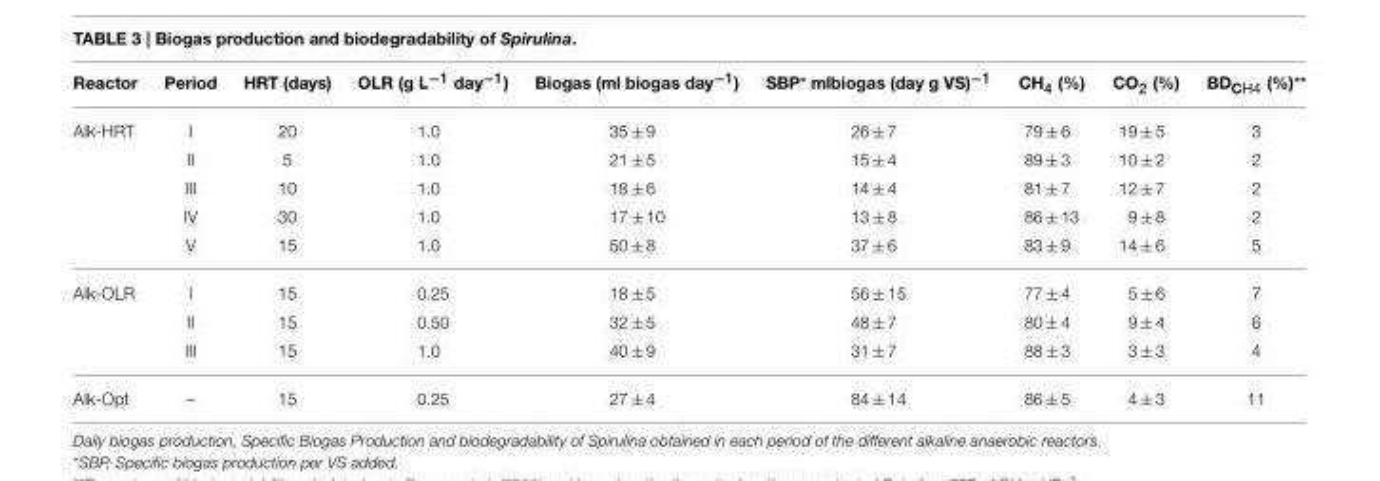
<table><thead><tr><td>Reactor</td><td>Period</td><td>HRT (days)</td><td>OLR (g L<sup>−1</sup> day<sup>−1</sup>)</td><td>Biogas (ml biogas day<sup>−1</sup>)</td><td>SBP* mlbiogas (day g VS)<sup>−1</sup></td><td>CH<sub>4</sub> (%)</td><td>CO<sub>2</sub> (%)</td><td>BD<sub>CH4</sub> (%)**</td></tr></thead><tbody><tr><td rowspan="5">Alk-HRT</td><td>I</td><td>20</td><td>1.0</td><td>35 ± 9</td><td>26 ± 7</td><td>79 ± 6</td><td>19 ± 5</td><td>3</td></tr><tr><td>II</td><td>5</td><td>1.0</td><td>21 ± 5</td><td>15 ± 4</td><td>89 ± 3</td><td>10 ± 2</td><td>2</td></tr><tr><td>III</td><td>10</td><td>1.0</td><td>18 ± 6</td><td>14 ± 4</td><td>81 ± 7</td><td>12 ± 7</td><td>2</td></tr><tr><td>IV</td><td>30</td><td>1.0</td><td>17 ± 10</td><td>13 ± 8</td><td>86 ± 13</td><td>9 ± 8</td><td>2</td></tr><tr><td>V</td><td>15</td><td>1.0</td><td>50 ± 8</td><td>37 ± 6</td><td>83 ± 9</td><td>14 ± 6</td><td>5</td></tr><tr><td rowspan="3">Alk-OLR</td><td>I</td><td>15</td><td>0.25</td><td>18 ± 5</td><td>56 ± 15</td><td>77 ± 4</td><td>5 ± 6</td><td>7</td></tr><tr><td>II</td><td>15</td><td>0.50</td><td>32 ± 5</td><td>48 ± 7</td><td>80 ± 4</td><td>9 ± 4</td><td>6</td></tr><tr><td>III</td><td>15</td><td>1.0</td><td>40 ± 9</td><td>31 ± 7</td><td>88 ± 3</td><td>3 ± 3</td><td>4</td></tr><tr><td>Alk-Opt</td><td>–</td><td>15</td><td>0.25</td><td>27 ± 4</td><td>84 ± 14</td><td>86 ± 5</td><td>4 ± 3</td><td>11</td></tr></tbody></table>